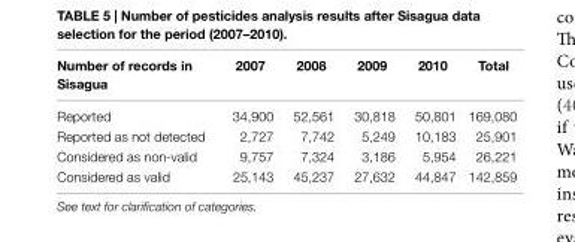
<table><thead><tr><td>number of records in sisagua</td><td>2007</td><td>2008</td><td>2009</td><td>2010</td><td>Total</td></tr></thead><tbody><tr><td>Reported</td><td>34,900</td><td>52,561</td><td>30,818</td><td>50,801</td><td>169,080</td></tr><tr><td>Reported as not detected</td><td>2,727</td><td>7,742</td><td>5,249</td><td>10,183</td><td>25,901</td></tr><tr><td>Considered as non-valid</td><td>9,757</td><td>7,324</td><td>3,186</td><td>5,954</td><td>26,221</td></tr><tr><td>Considered as valid</td><td>25,143</td><td>45,237</td><td>27,632</td><td>44,847</td><td>142,859</td></tr></tbody></table>